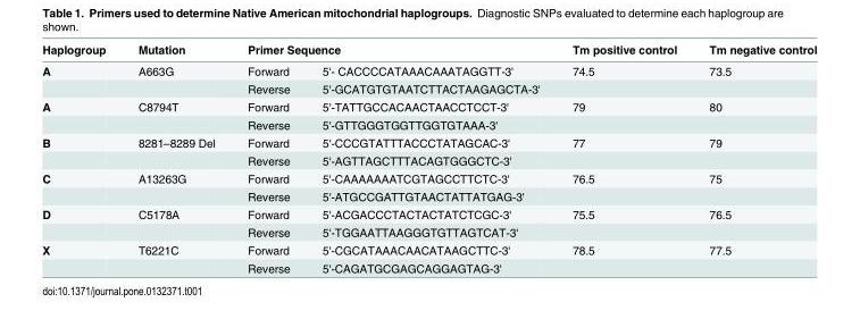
<table><thead><tr><td rowspan="2">Haplogroup A</td><td rowspan="2">Mutation A663G</td><td colspan="2">Primer Sequence</td><td rowspan="2">Tm positive control 74.5</td><td rowspan="2">Tm negative control 73.5</td></tr><tr><td>Forward</td><td>5&#x27;- CACCCCATAAACAAATAGGTT-3&#x27;</td></tr></thead><tbody><tr><td></td><td></td><td>Reverse</td><td>5&#x27;-GCATGTGTAATCTTACTAAGAGCTA-3&#x27;</td><td></td><td></td></tr><tr><td rowspan="2">A</td><td>C8794T</td><td>Forward</td><td>5&#x27;-TATTGCCACAACTAACCTCCT-3&#x27;</td><td>79</td><td>80</td></tr><tr><td></td><td>Reverse</td><td>5&#x27;-GTTGGGTGGTTGGTGTAAA-3&#x27;</td><td></td><td></td></tr><tr><td rowspan="2">B</td><td>8281–8289 Del</td><td>Forward</td><td>5&#x27;-CCCGTATTTACCCTATAGCAC-3&#x27;</td><td>77</td><td>79</td></tr><tr><td></td><td>Reverse</td><td>5&#x27;-AGTTAGCTTTACAGTGGGCTC-3&#x27;</td><td></td><td></td></tr><tr><td rowspan="2">C</td><td>A13263G</td><td>Forward</td><td>5&#x27;-CAAAAAAATCGTAGCCTTCTC-3&#x27;</td><td>76.5</td><td>75</td></tr><tr><td></td><td>Reverse</td><td>5&#x27;-ATGCCGATTGTAACTATTATGAG-3&#x27;</td><td></td><td></td></tr><tr><td rowspan="2">D</td><td>C5178A</td><td>Forward</td><td>5&#x27;-ACGACCCTACTACTATCTCGC-3&#x27;</td><td>75.5</td><td>76.5</td></tr><tr><td></td><td>Reverse</td><td>5&#x27;-TGGAATTAAGGGTGTTAGTCAT-3&#x27;</td><td></td><td></td></tr><tr><td rowspan="2">X</td><td>T6221C</td><td>Forward</td><td>5&#x27;-CGCATAAACAACATAAGCTTC-3&#x27;</td><td>78.5</td><td>77.5</td></tr><tr><td></td><td>Reverse</td><td>5&#x27;-CAGATGCGAGCAGGAGTAG-3&#x27;</td><td></td><td></td></tr></tbody></table>